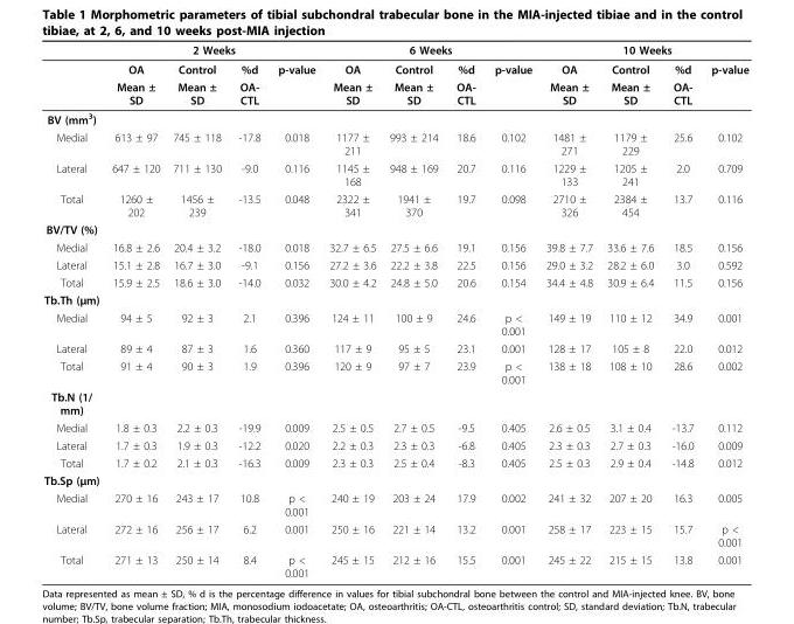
<table><thead><tr><td rowspan="2"></td><td colspan="4">2 Weeks</td><td colspan="4">6 Weeks</td><td colspan="4">10 Weeks</td></tr><tr><td>OA</td><td>Control</td><td>%d</td><td>p-value</td><td>OA</td><td>Control</td><td>%d</td><td>p-value</td><td>OA</td><td>Control</td><td>%d</td><td>p-value</td></tr></thead><tbody><tr><td></td><td>Mean ± SD</td><td>Mean ± SD</td><td>OA- CTL</td><td></td><td>Mean ± SD</td><td>Mean ± SD</td><td>OA- CTL</td><td></td><td>Mean ± SD</td><td>Mean ± SD</td><td>OA- CTL</td><td></td></tr><tr><td colspan="13">BV (mm<sup>3</sup>)</td></tr><tr><td>Medial</td><td>613 ± 97</td><td>745 ± 118</td><td>-17.8</td><td>0.018</td><td>1177 ± 211</td><td>993 ± 214</td><td>18.6</td><td>0.102</td><td>1481 ± 271</td><td>1179 ± 229</td><td>25.6</td><td>0.102</td></tr><tr><td>Lateral</td><td>647 ± 120</td><td>711 ± 130</td><td>-9.0</td><td>0.116</td><td>1145 ± 168</td><td>948 ± 169</td><td>20.7</td><td>0.116</td><td>1229 ± 133</td><td>1205 ± 241</td><td>2.0</td><td>0.709</td></tr><tr><td>Total</td><td>1260 ± 202</td><td>1456 ± 239</td><td>-13.5</td><td>0.048</td><td>2322 ± 341</td><td>1941 ± 370</td><td>19.7</td><td>0.098</td><td>2710 ± 326</td><td>2384 ± 454</td><td>13.7</td><td>0.116</td></tr><tr><td colspan="13">BV/TV (%)</td></tr><tr><td>Medial</td><td>16.8 ± 2.6</td><td>20.4 ± 3.2</td><td>-18.0</td><td>0.018</td><td>32.7 ± 6.5</td><td>27.5 ± 6.6</td><td>19.1</td><td>0.156</td><td>39.8 ± 7.7</td><td>33.6 ± 7.6</td><td>18.5</td><td>0.156</td></tr><tr><td>Lateral</td><td>15.1 ± 2.8</td><td>16.7 ± 3.0</td><td>-9.1</td><td>0.156</td><td>27.2 ± 3.6</td><td>22.2 ± 3.8</td><td>22.5</td><td>0.156</td><td>29.0 ± 3.2</td><td>28.2 ± 6.0</td><td>3.0</td><td>0.592</td></tr><tr><td>Total</td><td>15.9 ± 2.5</td><td>18.6 ± 3.0</td><td>-14.0</td><td>0.032</td><td>30.0 ± 4.2</td><td>24.8 ± 5.0</td><td>20.6</td><td>0.154</td><td>34.4 ± 4.8</td><td>30.9 ± 6.4</td><td>11.5</td><td>0.156</td></tr><tr><td colspan="13">Tb.Th (μm)</td></tr><tr><td>Medial</td><td>94 ± 5</td><td>92 ± 3</td><td>2.1</td><td>0.396</td><td>124 ± 11</td><td>100 ± 9</td><td>24.6</td><td>p &lt; 0.001</td><td>149 ± 19</td><td>110 ± 12</td><td>34.9</td><td>0.001</td></tr><tr><td>Lateral</td><td>89 ± 4</td><td>87 ± 3</td><td>1.6</td><td>0.360</td><td>117 ± 9</td><td>95 ± 5</td><td>23.1</td><td>0.001</td><td>128 ± 17</td><td>105 ± 8</td><td>22.0</td><td>0.012</td></tr><tr><td>Total</td><td>91 ± 4</td><td>90 ± 3</td><td>1.9</td><td>0.396</td><td>120 ± 9</td><td>97 ± 7</td><td>23.9</td><td>p &lt; 0.001</td><td>138 ± 18</td><td>108 ± 10</td><td>28.6</td><td>0.002</td></tr><tr><td colspan="13">Tb.N (1/ mm)</td></tr><tr><td>Medial</td><td>1.8 ± 0.3</td><td>2.2 ± 0.3</td><td>-19.9</td><td>0.009</td><td>2.5 ± 0.5</td><td>2.7 ± 0.5</td><td>-9.5</td><td>0.405</td><td>2.6 ± 0.5</td><td>3.1 ± 0.4</td><td>-13.7</td><td>0.112</td></tr><tr><td>Lateral</td><td>1.7 ± 0.3</td><td>1.9 ± 0.3</td><td>-12.2</td><td>0.020</td><td>2.2 ± 0.3</td><td>2.3 ± 0.3</td><td>-6.8</td><td>0.405</td><td>2.3 ± 0.3</td><td>2.7 ± 0.3</td><td>-16.0</td><td>0.009</td></tr><tr><td>Total</td><td>1.7 ± 0.2</td><td>2.1 ± 0.3</td><td>-16.3</td><td>0.009</td><td>2.3 ± 0.3</td><td>2.5 ± 0.4</td><td>-8.3</td><td>0.405</td><td>2.5 ± 0.3</td><td>2.9 ± 0.4</td><td>-14.8</td><td>0.012</td></tr><tr><td colspan="13">Tb.Sp (μm)</td></tr><tr><td>Medial</td><td>270 ± 16</td><td>243 ± 17</td><td>10.8</td><td>p &lt; 0.001</td><td>240 ± 19</td><td>203 ± 24</td><td>17.9</td><td>0.002</td><td>241 ± 32</td><td>207 ± 20</td><td>16.3</td><td>0.005</td></tr><tr><td>Lateral</td><td>272 ± 16</td><td>256 ± 17</td><td>6.2</td><td>0.001</td><td>250 ± 16</td><td>221 ± 14</td><td>13.2</td><td>0.001</td><td>258 ± 17</td><td>223 ± 15</td><td>15.7</td><td>p &lt; 0.001</td></tr><tr><td>Total</td><td>271 ± 13</td><td>250 ± 14</td><td>8.4</td><td>p &lt; 0.001</td><td>245 ± 15</td><td>212 ± 16</td><td>15.5</td><td>0.001</td><td>245 ± 22</td><td>215 ± 15</td><td>13.8</td><td>0.001</td></tr></tbody></table>